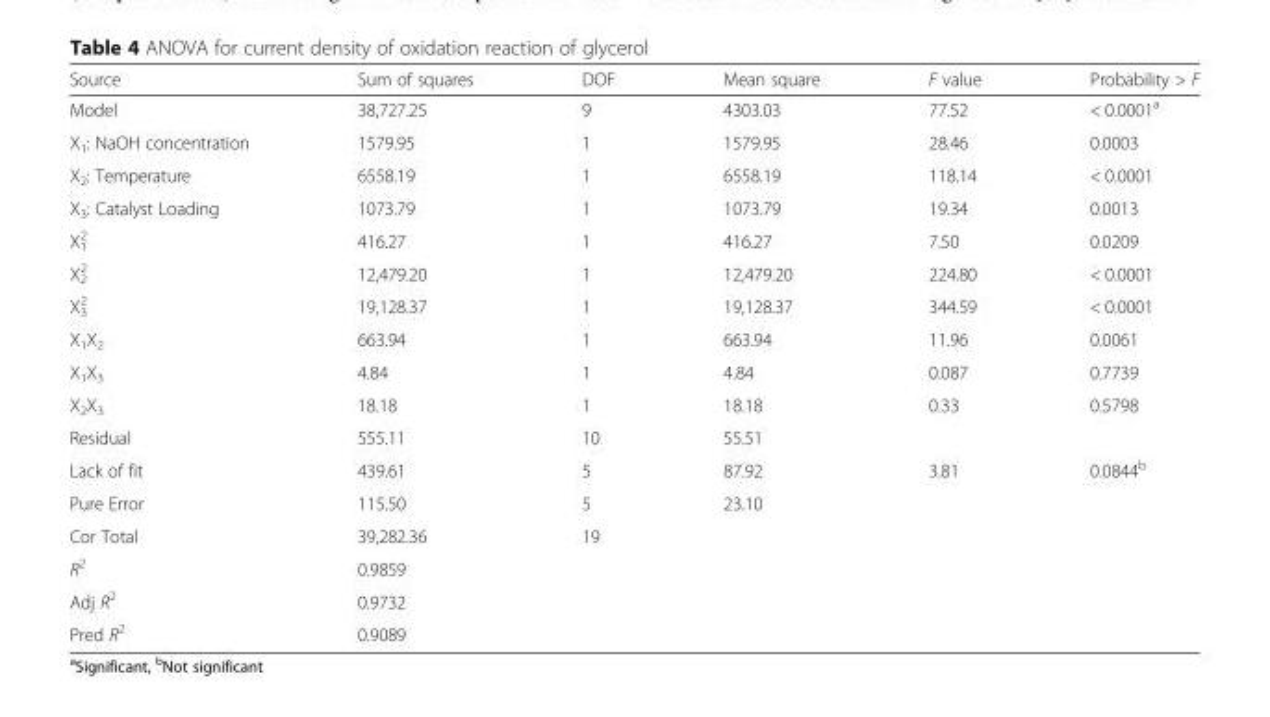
<table><thead><tr><td>Source</td><td>Sum of squares</td><td>DOF</td><td>Mean square</td><td>F value</td><td>Probability &gt; F</td></tr></thead><tbody><tr><td>Model</td><td>38,727.25</td><td>9</td><td>4303.03</td><td>77.52</td><td>&lt; 0.0001<sup>a</sup></td></tr><tr><td>X<sub>1</sub>: NaOH concentration</td><td>1579.95</td><td>1</td><td>1579.95</td><td>28.46</td><td>0.0003</td></tr><tr><td>X<sub>2</sub>: Temperature</td><td>6558.19</td><td>1</td><td>6558.19</td><td>118.14</td><td>&lt; 0.0001</td></tr><tr><td>X<sub>3</sub>: Catalyst Loading</td><td>1073.79</td><td>1</td><td>1073.79</td><td>19.34</td><td>0.0013</td></tr><tr><td>X<sub>1</sub> <sup>2</sup></td><td>416.27</td><td>1</td><td>416.27</td><td>7.50</td><td>0.0209</td></tr><tr><td>X<sub>2</sub> <sup>2</sup></td><td>12,479.20</td><td>1</td><td>12,479.20</td><td>224.80</td><td>&lt; 0.0001</td></tr><tr><td>X<sub>3</sub> <sup>2</sup></td><td>19,128.37</td><td>1</td><td>19,128.37</td><td>344.59</td><td>&lt; 0.0001</td></tr><tr><td>X<sub>1</sub>X<sub>2</sub></td><td>663.94</td><td>1</td><td>663.94</td><td>11.96</td><td>0.0061</td></tr><tr><td>X<sub>1</sub>X<sub>3</sub></td><td>4.84</td><td>1</td><td>4.84</td><td>0.087</td><td>0.7739</td></tr><tr><td>X<sub>2</sub>X<sub>3</sub></td><td>18.18</td><td>1</td><td>18.18</td><td>0.33</td><td>0.5798</td></tr><tr><td>Residual</td><td>555.11</td><td>10</td><td>55.51</td><td></td><td></td></tr><tr><td>Lack of fit</td><td>439.61</td><td>5</td><td>87.92</td><td>3.81</td><td>0.0844<sup>b</sup></td></tr><tr><td>Pure Error</td><td>115.50</td><td>5</td><td>23.10</td><td></td><td></td></tr><tr><td>Cor Total</td><td>39,282.36</td><td>19</td><td></td><td></td><td></td></tr><tr><td>R<sup>2</sup></td><td>0.9859</td><td></td><td></td><td></td><td></td></tr><tr><td>Adj R<sup>2</sup></td><td>0.9732</td><td></td><td></td><td></td><td></td></tr><tr><td>Pred R<sup>2</sup></td><td>0.9089</td><td></td><td></td><td></td><td></td></tr></tbody></table>